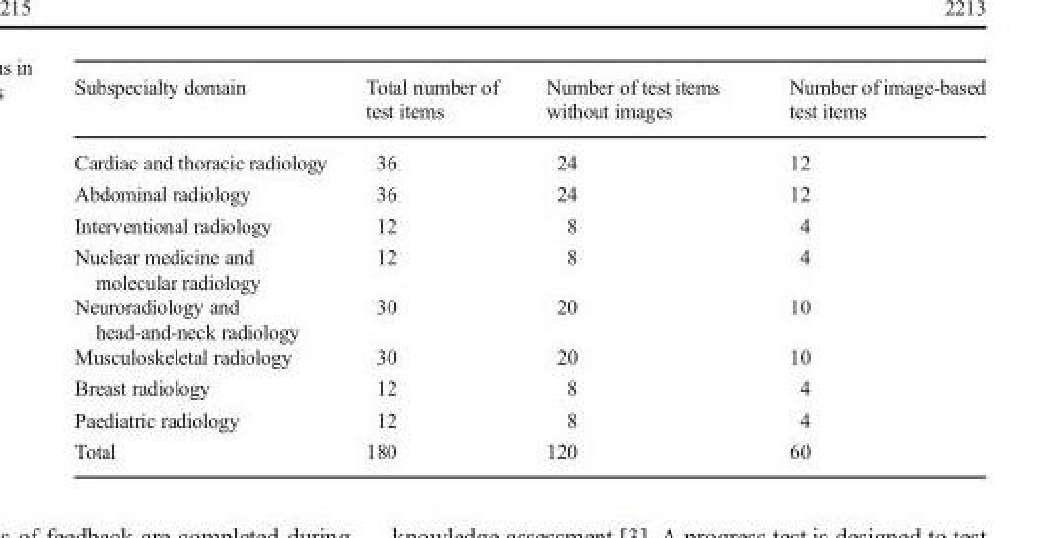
<table><thead><tr><td>Subspecialty domain</td><td>Total number of test items</td><td>Number of test items without images</td><td>Number of image-based test items</td></tr></thead><tbody><tr><td>Cardiac and thoracic radiology</td><td>36</td><td>24</td><td>12</td></tr><tr><td>Abdominal radiology</td><td>36</td><td>24</td><td>12</td></tr><tr><td>Interventional radiology</td><td>12</td><td>8</td><td>4</td></tr><tr><td>Nuclear medicine and molecular radiology</td><td>12</td><td>8</td><td>4</td></tr><tr><td>Neuroradiology and head-and-neck radiology</td><td>30</td><td>20</td><td>10</td></tr><tr><td>Musculoskeletal radiology</td><td>30</td><td>20</td><td>10</td></tr><tr><td>Breast radiology</td><td>12</td><td>8</td><td>4</td></tr><tr><td>Paediatric radiology</td><td>12</td><td>8</td><td>4</td></tr><tr><td>Total</td><td>180</td><td>120</td><td>60</td></tr></tbody></table>